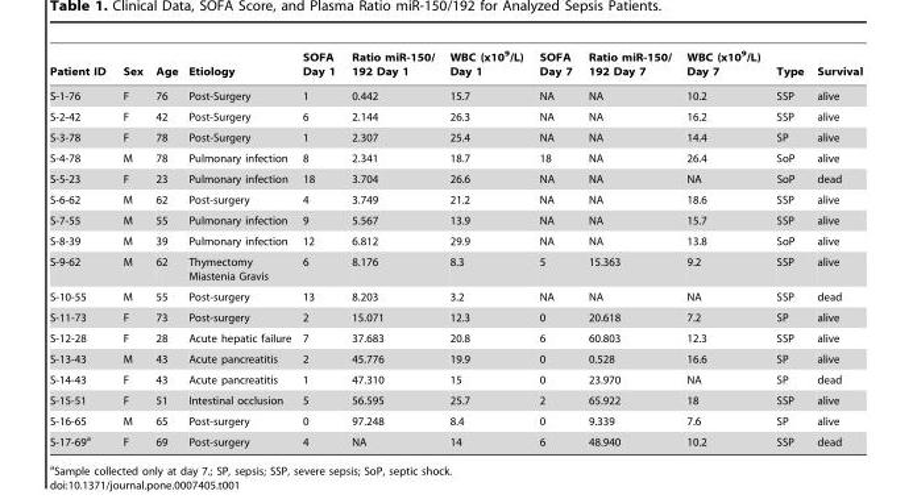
<table><thead><tr><td>Patient ID</td><td>Sex</td><td>Age</td><td>Etiology</td><td>SOFA Day 1</td><td>Ratio miR-150/ 192 Day 1</td><td>WBC (x10<sup>9</sup>/L) Day 1</td><td>SOFA Day 7</td><td>Ratio miR-150/ 192 Day 7</td><td>WBC (x10<sup>9</sup>/L) Day 7</td><td>Type</td><td>Survival</td></tr></thead><tbody><tr><td>S-1-76</td><td>F</td><td>76</td><td>Post-Surgery</td><td>1</td><td>0.442</td><td>15.7</td><td>NA</td><td>NA</td><td>10.2</td><td>SSP</td><td>alive</td></tr><tr><td>S-2-42</td><td>F</td><td>42</td><td>Post-Surgery</td><td>6</td><td>2.144</td><td>26.3</td><td>NA</td><td>NA</td><td>16.2</td><td>SSP</td><td>alive</td></tr><tr><td>S-3-78</td><td>F</td><td>78</td><td>Post-Surgery</td><td>1</td><td>2.307</td><td>25.4</td><td>NA</td><td>NA</td><td>14.4</td><td>SP</td><td>alive</td></tr><tr><td>S-4-78</td><td>M</td><td>78</td><td>Pulmonary infection</td><td>8</td><td>2.341</td><td>18.7</td><td>18</td><td>NA</td><td>26.4</td><td>SoP</td><td>alive</td></tr><tr><td>S-5-23</td><td>F</td><td>23</td><td>Pulmonary infection</td><td>18</td><td>3.704</td><td>26.6</td><td>NA</td><td>NA</td><td>NA</td><td>SoP</td><td>dead</td></tr><tr><td>S-6-62</td><td>M</td><td>62</td><td>Post-surgery</td><td>4</td><td>3.749</td><td>21.2</td><td>NA</td><td>NA</td><td>18.6</td><td>SSP</td><td>alive</td></tr><tr><td>S-7-55</td><td>M</td><td>55</td><td>Pulmonary infection</td><td>9</td><td>5.567</td><td>13.9</td><td>NA</td><td>NA</td><td>15.7</td><td>SSP</td><td>alive</td></tr><tr><td>S-8-39</td><td>M</td><td>39</td><td>Pulmonary infection</td><td>12</td><td>6.812</td><td>29.9</td><td>NA</td><td>NA</td><td>13.8</td><td>SoP</td><td>alive</td></tr><tr><td>S-9-62</td><td>M</td><td>62</td><td>Thymectomy Miastenia Gravis</td><td>6</td><td>8.176</td><td>8.3</td><td>5</td><td>15.363</td><td>9.2</td><td>SSP</td><td>alive</td></tr><tr><td>S-10-55</td><td>M</td><td>55</td><td>Post-surgery</td><td>13</td><td>8.203</td><td>3.2</td><td>NA</td><td>NA</td><td>NA</td><td>SSP</td><td>dead</td></tr><tr><td>S-11-73</td><td>F</td><td>73</td><td>Post-surgery</td><td>2</td><td>15.071</td><td>12.3</td><td>0</td><td>20.618</td><td>7.2</td><td>SP</td><td>alive</td></tr><tr><td>S-12-28</td><td>F</td><td>28</td><td>Acute hepatic failure</td><td>7</td><td>37.683</td><td>20.8</td><td>6</td><td>60.803</td><td>12.3</td><td>SSP</td><td>alive</td></tr><tr><td>S-13-43</td><td>M</td><td>43</td><td>Acute pancreatitis</td><td>2</td><td>45.776</td><td>19.9</td><td>0</td><td>0.528</td><td>16.6</td><td>SP</td><td>alive</td></tr><tr><td>S-14-43</td><td>F</td><td>43</td><td>Acute pancreatitis</td><td>1</td><td>47.310</td><td>15</td><td>0</td><td>23.970</td><td>NA</td><td>SP</td><td>dead</td></tr><tr><td>S-15-51</td><td>F</td><td>51</td><td>Intestinal occlusion</td><td>5</td><td>56.595</td><td>25.7</td><td>2</td><td>65.922</td><td>18</td><td>SSP</td><td>alive</td></tr><tr><td>S-16-65</td><td>M</td><td>65</td><td>Post-surgery</td><td>0</td><td>97.248</td><td>8.4</td><td>0</td><td>9.339</td><td>7.6</td><td>SP</td><td>alive</td></tr><tr><td>S-17-69<sup>a</sup></td><td>F</td><td>69</td><td>Post-surgery</td><td>4</td><td>NA</td><td>14</td><td>6</td><td>48.940</td><td>10.2</td><td>SSP</td><td>dead</td></tr></tbody></table>